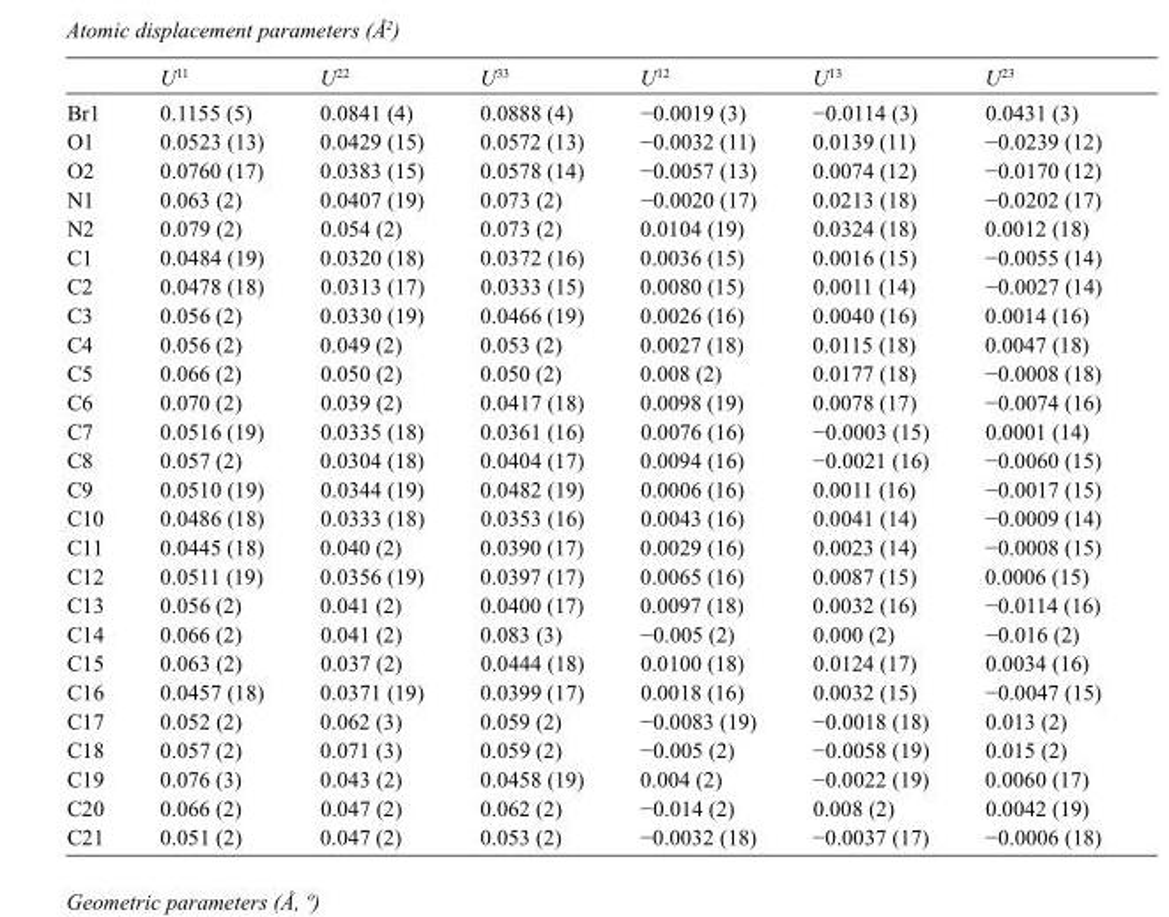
<table><thead><tr><td></td><td>U<sup>11</sup></td><td>U<sup>22</sup></td><td>U<sup>33</sup></td><td>U<sup>12</sup></td><td>U<sup>13</sup></td><td>U<sup>23</sup></td></tr></thead><tbody><tr><td>Br1</td><td>0.1155 (5)</td><td>0.0841 (4)</td><td>0.0888 (4)</td><td>−0.0019 (3)</td><td>−0.0114 (3)</td><td>0.0431 (3)</td></tr><tr><td>O1</td><td>0.0523 (13)</td><td>0.0429 (15)</td><td>0.0572 (13)</td><td>−0.0032 (11)</td><td>0.0139 (11)</td><td>−0.0239 (12)</td></tr><tr><td>O2</td><td>0.0760 (17)</td><td>0.0383 (15)</td><td>0.0578 (14)</td><td>−0.0057 (13)</td><td>0.0074 (12)</td><td>−0.0170 (12)</td></tr><tr><td>N1</td><td>0.063 (2)</td><td>0.0407 (19)</td><td>0.073 (2)</td><td>−0.0020 (17)</td><td>0.0213 (18)</td><td>−0.0202 (17)</td></tr><tr><td>N2</td><td>0.079 (2)</td><td>0.054 (2)</td><td>0.073 (2)</td><td>0.0104 (19)</td><td>0.0324 (18)</td><td>0.0012 (18)</td></tr><tr><td>C1</td><td>0.0484 (19)</td><td>0.0320 (18)</td><td>0.0372 (16)</td><td>0.0036 (15)</td><td>0.0016 (15)</td><td>−0.0055 (14)</td></tr><tr><td>C2</td><td>0.0478 (18)</td><td>0.0313 (17)</td><td>0.0333 (15)</td><td>0.0080 (15)</td><td>0.0011 (14)</td><td>−0.0027 (14)</td></tr><tr><td>C3</td><td>0.056 (2)</td><td>0.0330 (19)</td><td>0.0466 (19)</td><td>0.0026 (16)</td><td>0.0040 (16)</td><td>0.0014 (16)</td></tr><tr><td>C4</td><td>0.056 (2)</td><td>0.049 (2)</td><td>0.053 (2)</td><td>0.0027 (18)</td><td>0.0115 (18)</td><td>0.0047 (18)</td></tr><tr><td>C5</td><td>0.066 (2)</td><td>0.050 (2)</td><td>0.050 (2)</td><td>0.008 (2)</td><td>0.0177 (18)</td><td>−0.0008 (18)</td></tr><tr><td>C6</td><td>0.070 (2)</td><td>0.039 (2)</td><td>0.0417 (18)</td><td>0.0098 (19)</td><td>0.0078 (17)</td><td>−0.0074 (16)</td></tr><tr><td>C7</td><td>0.0516 (19)</td><td>0.0335 (18)</td><td>0.0361 (16)</td><td>0.0076 (16)</td><td>−0.0003 (15)</td><td>0.0001 (14)</td></tr><tr><td>C8</td><td>0.057 (2)</td><td>0.0304 (18)</td><td>0.0404 (17)</td><td>0.0094 (16)</td><td>−0.0021 (16)</td><td>−0.0060 (15)</td></tr><tr><td>C9</td><td>0.0510 (19)</td><td>0.0344 (19)</td><td>0.0482 (19)</td><td>0.0006 (16)</td><td>0.0011 (16)</td><td>−0.0017 (15)</td></tr><tr><td>C10</td><td>0.0486 (18)</td><td>0.0333 (18)</td><td>0.0353 (16)</td><td>0.0043 (16)</td><td>0.0041 (14)</td><td>−0.0009 (14)</td></tr><tr><td>C11</td><td>0.0445 (18)</td><td>0.040 (2)</td><td>0.0390 (17)</td><td>0.0029 (16)</td><td>0.0023 (14)</td><td>−0.0008 (15)</td></tr><tr><td>C12</td><td>0.0511 (19)</td><td>0.0356 (19)</td><td>0.0397 (17)</td><td>0.0065 (16)</td><td>0.0087 (15)</td><td>0.0006 (15)</td></tr><tr><td>C13</td><td>0.056 (2)</td><td>0.041 (2)</td><td>0.0400 (17)</td><td>0.0097 (18)</td><td>0.0032 (16)</td><td>−0.0114 (16)</td></tr><tr><td>C14</td><td>0.066 (2)</td><td>0.041 (2)</td><td>0.083 (3)</td><td>−0.005 (2)</td><td>0.000 (2)</td><td>−0.016 (2)</td></tr><tr><td>C15</td><td>0.063 (2)</td><td>0.037 (2)</td><td>0.0444 (18)</td><td>0.0100 (18)</td><td>0.0124 (17)</td><td>0.0034 (16)</td></tr><tr><td>C16</td><td>0.0457 (18)</td><td>0.0371 (19)</td><td>0.0399 (17)</td><td>0.0018 (16)</td><td>0.0032 (15)</td><td>−0.0047 (15)</td></tr><tr><td>C17</td><td>0.052 (2)</td><td>0.062 (3)</td><td>0.059 (2)</td><td>−0.0083 (19)</td><td>−0.0018 (18)</td><td>0.013 (2)</td></tr><tr><td>C18</td><td>0.057 (2)</td><td>0.071 (3)</td><td>0.059 (2)</td><td>−0.005 (2)</td><td>−0.0058 (19)</td><td>0.015 (2)</td></tr><tr><td>C19</td><td>0.076 (3)</td><td>0.043 (2)</td><td>0.0458 (19)</td><td>0.004 (2)</td><td>−0.0022 (19)</td><td>0.0060 (17)</td></tr><tr><td>C20</td><td>0.066 (2)</td><td>0.047 (2)</td><td>0.062 (2)</td><td>−0.014 (2)</td><td>0.008 (2)</td><td>0.0042 (19)</td></tr><tr><td>C21</td><td>0.051 (2)</td><td>0.047 (2)</td><td>0.053 (2)</td><td>−0.0032 (18)</td><td>−0.0037 (17)</td><td>−0.0006 (18)</td></tr></tbody></table>